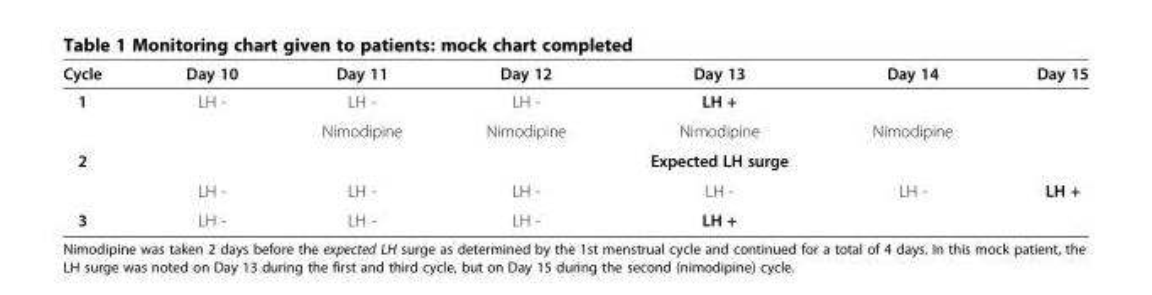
<table><thead><tr><td>Cycle</td><td>Day 10</td><td>Day 11</td><td>Day 12</td><td>Day 13</td><td>Day 14</td><td>Day 15</td></tr></thead><tbody><tr><td>1</td><td>LH -</td><td>LH -</td><td>LH -</td><td>LH +</td><td></td><td></td></tr><tr><td rowspan="3">2</td><td rowspan="2"></td><td rowspan="2">Nimodipine</td><td rowspan="2">Nimodipine</td><td>Nimodipine</td><td rowspan="2">Nimodipine</td><td rowspan="2"></td></tr><tr><td>Expected LH surge</td></tr><tr><td>LH -</td><td>LH -</td><td>LH -</td><td>LH -</td><td>LH -</td><td>LH +</td></tr><tr><td>3</td><td>LH -</td><td>LH -</td><td>LH -</td><td>LH +</td><td></td><td></td></tr></tbody></table>